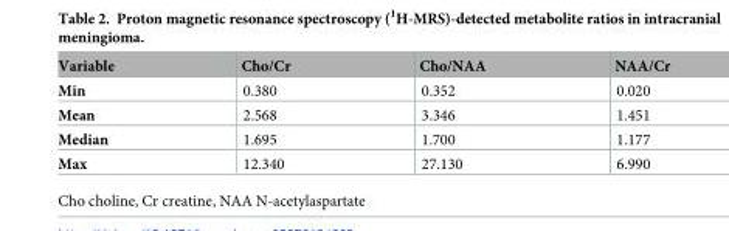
<table><thead><tr><td>Variable</td><td>Cho/Cr</td><td>Cho/NAA</td><td>NAA/Cr</td></tr></thead><tbody><tr><td>Min</td><td>0.380</td><td>0.352</td><td>0.020</td></tr><tr><td>Mean</td><td>2.568</td><td>3.346</td><td>1.451</td></tr><tr><td>Median</td><td>1.695</td><td>1.700</td><td>1.177</td></tr><tr><td>Max</td><td>12.340</td><td>27.130</td><td>6.990</td></tr></tbody></table>